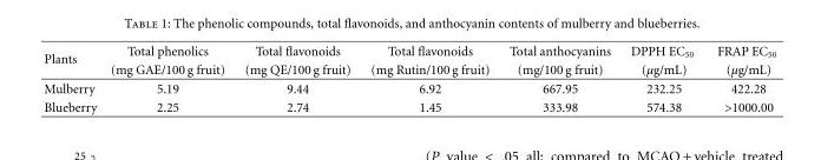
<table><thead><tr><td rowspan="2">Plants</td><td rowspan="2">Total phenolics (mg GAE/100 g fruit)</td><td rowspan="2">Total flavonoids (mg QE/100 g fruit)</td><td rowspan="2">Total flavonoids (mg Rutin/100 g fruit)</td><td rowspan="2">Total anthocyanins (mg/100 g fruit)</td><td rowspan="2">DPPH EC<sub>50</sub> (μg/mL)</td><td rowspan="2">FRAP EC<sub>50</sub> (μg/mL)</td></tr><tr></tr></thead><tbody><tr><td>Mulberry</td><td>5.19</td><td>9.44</td><td>6.92</td><td>667.95</td><td>232.25</td><td>422.28</td></tr><tr><td>Blueberry</td><td>2.25</td><td>2.74</td><td>1.45</td><td>333.98</td><td>574.38</td><td>&gt;1000.00</td></tr></tbody></table>